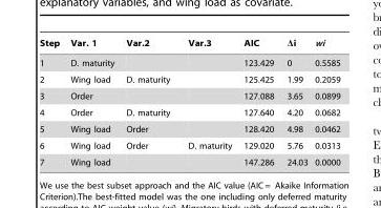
<table><thead><tr><td>Step</td><td>Var. 1</td><td>Var.2</td><td>Var.3</td><td>AIC</td><td>Δi</td><td>wi</td></tr></thead><tbody><tr><td>1</td><td>D. maturity</td><td></td><td></td><td>123.429</td><td>0</td><td>0.5585</td></tr><tr><td>2</td><td>Wing load</td><td>D. maturity</td><td></td><td>125.425</td><td>1.99</td><td>0.2059</td></tr><tr><td>3</td><td>Order</td><td></td><td></td><td>127.088</td><td>3.65</td><td>0.0899</td></tr><tr><td>4</td><td>Order</td><td>D. maturity</td><td></td><td>127.640</td><td>4.20</td><td>0.0682</td></tr><tr><td>5</td><td>Wing load</td><td>Order</td><td></td><td>128.420</td><td>4.98</td><td>0.0462</td></tr><tr><td>6</td><td>Wing load</td><td>Order</td><td>D. maturity</td><td>129.020</td><td>5.76</td><td>0.0313</td></tr><tr><td>7</td><td>Wing load</td><td></td><td></td><td>147.286</td><td>24.03</td><td>0.0000</td></tr></tbody></table>